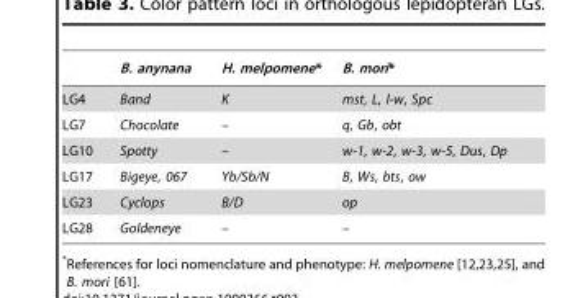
<table><thead><tr><td></td><td>B. anynana</td><td>H. melpomene*</td><td>B. mori*</td></tr></thead><tbody><tr><td>LG4</td><td>Band</td><td>K</td><td>mst, L, l-w, Spc</td></tr><tr><td>LG7</td><td>Chocolate</td><td>–</td><td>q, Gb, obt</td></tr><tr><td>LG10</td><td>Spotty</td><td>–</td><td>w-1, w-2, w-3, w-5, Dus, Dp</td></tr><tr><td>LG17</td><td>Bigeye, 067</td><td>Yb/Sb/N</td><td>B, Ws, bts, ow</td></tr><tr><td>LG23</td><td>Cyclops</td><td>B/D</td><td>op</td></tr><tr><td>LG28</td><td>Goldeneye</td><td>–</td><td>–</td></tr></tbody></table>